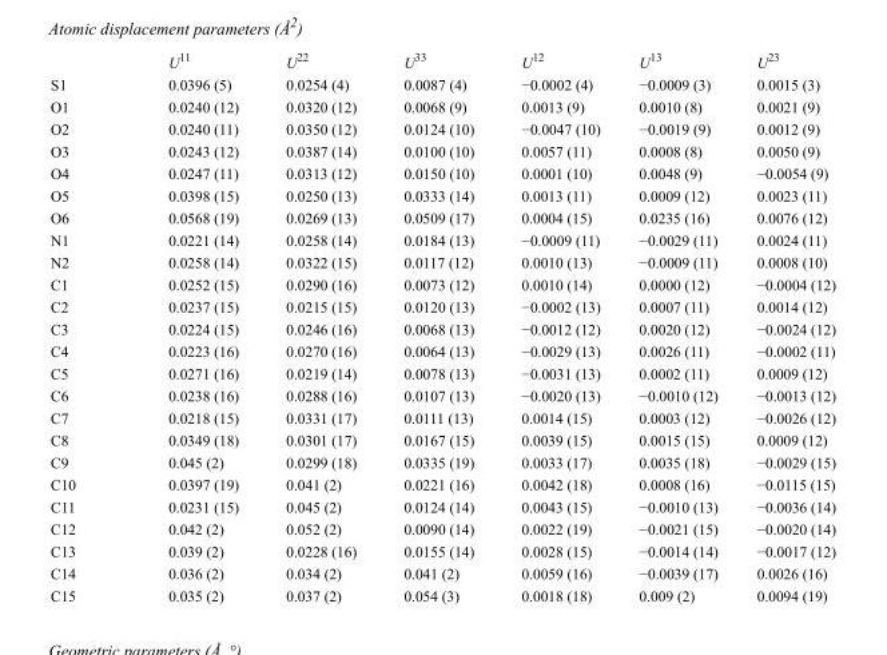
<table><thead><tr><td></td><td>U<sup>11</sup></td><td>U<sup>22</sup></td><td>U<sup>33</sup></td><td>U<sup>12</sup></td><td>U<sup>13</sup></td><td>U<sup>23</sup></td></tr></thead><tbody><tr><td>S1</td><td>0.0396 (5)</td><td>0.0254 (4)</td><td>0.0087 (4)</td><td>−0.0002 (4)</td><td>−0.0009 (3)</td><td>0.0015 (3)</td></tr><tr><td>O1</td><td>0.0240 (12)</td><td>0.0320 (12)</td><td>0.0068 (9)</td><td>0.0013 (9)</td><td>0.0010 (8)</td><td>0.0021 (9)</td></tr><tr><td>O2</td><td>0.0240 (11)</td><td>0.0350 (12)</td><td>0.0124 (10)</td><td>−0.0047 (10)</td><td>−0.0019 (9)</td><td>0.0012 (9)</td></tr><tr><td>O3</td><td>0.0243 (12)</td><td>0.0387 (14)</td><td>0.0100 (10)</td><td>0.0057 (11)</td><td>0.0008 (8)</td><td>0.0050 (9)</td></tr><tr><td>O4</td><td>0.0247 (11)</td><td>0.0313 (12)</td><td>0.0150 (10)</td><td>0.0001 (10)</td><td>0.0048 (9)</td><td>−0.0054 (9)</td></tr><tr><td>O5</td><td>0.0398 (15)</td><td>0.0250 (13)</td><td>0.0333 (14)</td><td>0.0013 (11)</td><td>0.0009 (12)</td><td>0.0023 (11)</td></tr><tr><td>O6</td><td>0.0568 (19)</td><td>0.0269 (13)</td><td>0.0509 (17)</td><td>0.0004 (15)</td><td>0.0235 (16)</td><td>0.0076 (12)</td></tr><tr><td>N1</td><td>0.0221 (14)</td><td>0.0258 (14)</td><td>0.0184 (13)</td><td>−0.0009 (11)</td><td>−0.0029 (11)</td><td>0.0024 (11)</td></tr><tr><td>N2</td><td>0.0258 (14)</td><td>0.0322 (15)</td><td>0.0117 (12)</td><td>0.0010 (13)</td><td>−0.0009 (11)</td><td>0.0008 (10)</td></tr><tr><td>C1</td><td>0.0252 (15)</td><td>0.0290 (16)</td><td>0.0073 (12)</td><td>0.0010 (14)</td><td>0.0000 (12)</td><td>−0.0004 (12)</td></tr><tr><td>C2</td><td>0.0237 (15)</td><td>0.0215 (15)</td><td>0.0120 (13)</td><td>−0.0002 (13)</td><td>0.0007 (11)</td><td>0.0014 (12)</td></tr><tr><td>C3</td><td>0.0224 (15)</td><td>0.0246 (16)</td><td>0.0068 (13)</td><td>−0.0012 (12)</td><td>0.0020 (12)</td><td>−0.0024 (12)</td></tr><tr><td>C4</td><td>0.0223 (16)</td><td>0.0270 (16)</td><td>0.0064 (13)</td><td>−0.0029 (13)</td><td>0.0026 (11)</td><td>−0.0002 (11)</td></tr><tr><td>C5</td><td>0.0271 (16)</td><td>0.0219 (14)</td><td>0.0078 (13)</td><td>−0.0031 (13)</td><td>0.0002 (11)</td><td>0.0009 (12)</td></tr><tr><td>C6</td><td>0.0238 (16)</td><td>0.0288 (16)</td><td>0.0107 (13)</td><td>−0.0020 (13)</td><td>−0.0010 (12)</td><td>−0.0013 (12)</td></tr><tr><td>C7</td><td>0.0218 (15)</td><td>0.0331 (17)</td><td>0.0111 (13)</td><td>0.0014 (15)</td><td>0.0003 (12)</td><td>−0.0026 (12)</td></tr><tr><td>C8</td><td>0.0349 (18)</td><td>0.0301 (17)</td><td>0.0167 (15)</td><td>0.0039 (15)</td><td>0.0015 (15)</td><td>0.0009 (12)</td></tr><tr><td>C9</td><td>0.045 (2)</td><td>0.0299 (18)</td><td>0.0335 (19)</td><td>0.0033 (17)</td><td>0.0035 (18)</td><td>−0.0029 (15)</td></tr><tr><td>C10</td><td>0.0397 (19)</td><td>0.041 (2)</td><td>0.0221 (16)</td><td>0.0042 (18)</td><td>0.0008 (16)</td><td>−0.0115 (15)</td></tr><tr><td>C11</td><td>0.0231 (15)</td><td>0.045 (2)</td><td>0.0124 (14)</td><td>0.0043 (15)</td><td>−0.0010 (13)</td><td>−0.0036 (14)</td></tr><tr><td>C12</td><td>0.042 (2)</td><td>0.052 (2)</td><td>0.0090 (14)</td><td>0.0022 (19)</td><td>−0.0021 (15)</td><td>−0.0020 (14)</td></tr><tr><td>C13</td><td>0.039 (2)</td><td>0.0228 (16)</td><td>0.0155 (14)</td><td>0.0028 (15)</td><td>−0.0014 (14)</td><td>−0.0017 (12)</td></tr><tr><td>C14</td><td>0.036 (2)</td><td>0.034 (2)</td><td>0.041 (2)</td><td>0.0059 (16)</td><td>−0.0039 (17)</td><td>0.0026 (16)</td></tr><tr><td>C15</td><td>0.035 (2)</td><td>0.037 (2)</td><td>0.054 (3)</td><td>0.0018 (18)</td><td>0.009 (2)</td><td>0.0094 (19)</td></tr></tbody></table>